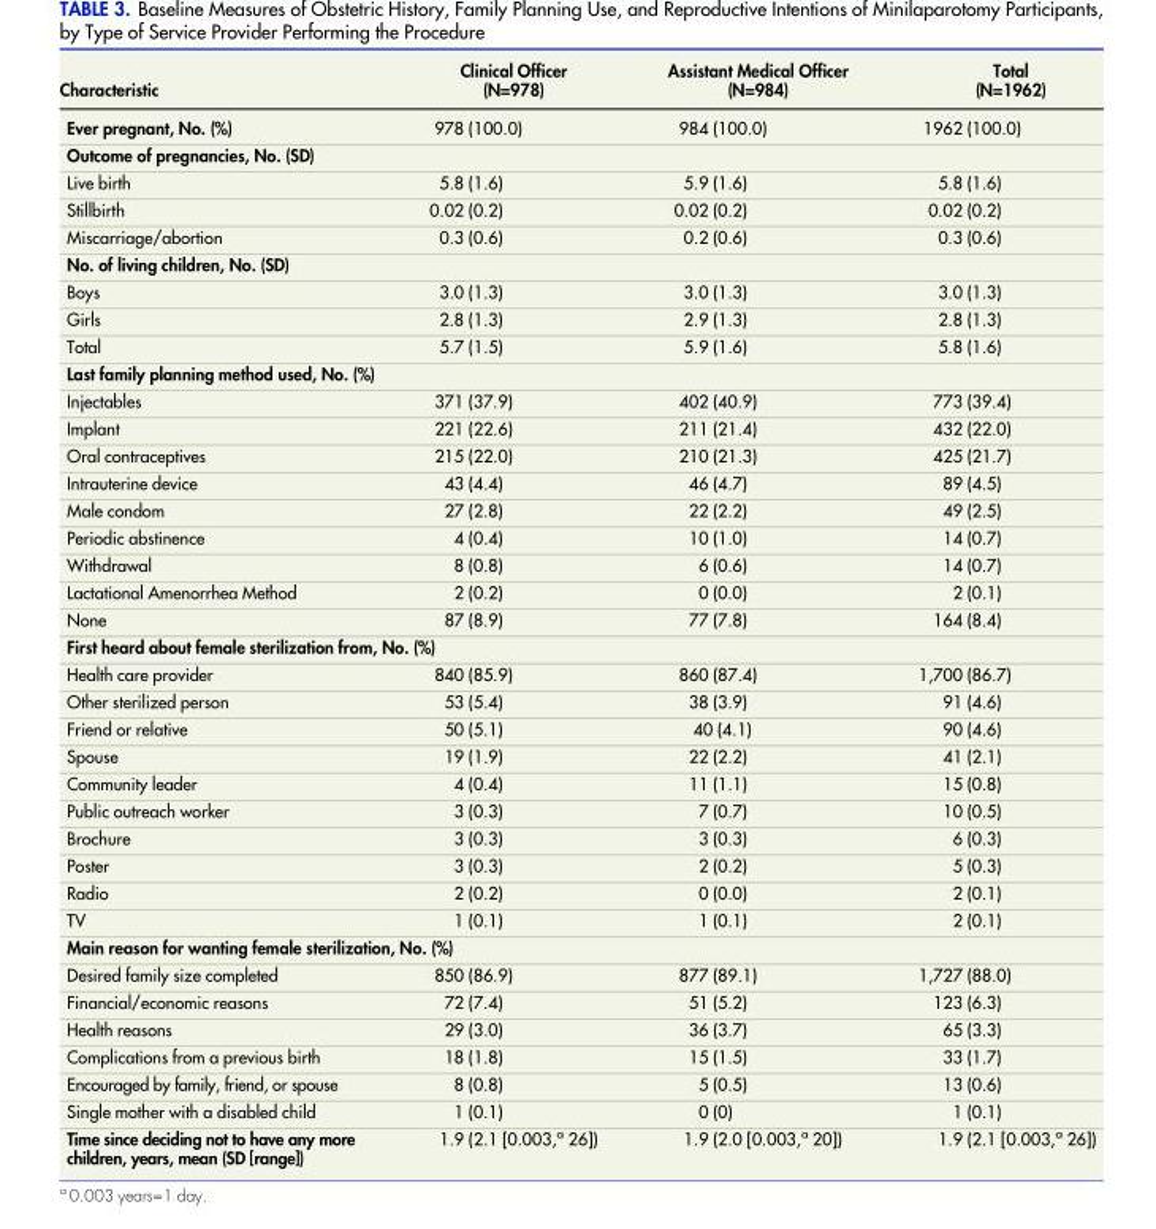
<table><thead><tr><td>Characteristic</td><td>Clinical Officer (N=978)</td><td>Assistant Medical Officer (N=984)</td><td>Total (N=1962)</td></tr></thead><tbody><tr><td>Ever pregnant, No. (%)</td><td>978 (100.0)</td><td>984 (100.0)</td><td>1962 (100.0)</td></tr><tr><td colspan="4">Outcome of pregnancies, No. (SD)</td></tr><tr><td>Live birth</td><td>5.8 (1.6)</td><td>5.9 (1.6)</td><td>5.8 (1.6)</td></tr><tr><td>Stillbirth</td><td>0.02 (0.2)</td><td>0.02 (0.2)</td><td>0.02 (0.2)</td></tr><tr><td>Miscarriage/abortion</td><td>0.3 (0.6)</td><td>0.2 (0.6)</td><td>0.3 (0.6)</td></tr><tr><td colspan="4">No. of living children, No. (SD)</td></tr><tr><td>Boys</td><td>3.0 (1.3)</td><td>3.0 (1.3)</td><td>3.0 (1.3)</td></tr><tr><td>Girls</td><td>2.8 (1.3)</td><td>2.9 (1.3)</td><td>2.8 (1.3)</td></tr><tr><td>Total</td><td>5.7 (1.5)</td><td>5.9 (1.6)</td><td>5.8 (1.6)</td></tr><tr><td colspan="4">Last family planning method used, No. (%)</td></tr><tr><td>Injectables</td><td>371 (37.9)</td><td>402 (40.9)</td><td>773 (39.4)</td></tr><tr><td>Implant</td><td>221 (22.6)</td><td>211 (21.4)</td><td>432 (22.0)</td></tr><tr><td>Oral contraceptives</td><td>215 (22.0)</td><td>210 (21.3)</td><td>425 (21.7)</td></tr><tr><td>Intrauterine device</td><td>43 (4.4)</td><td>46 (4.7)</td><td>89 (4.5)</td></tr><tr><td>Male condom</td><td>27 (2.8)</td><td>22 (2.2)</td><td>49 (2.5)</td></tr><tr><td>Periodic abstinence</td><td>4 (0.4)</td><td>10 (1.0)</td><td>14 (0.7)</td></tr><tr><td>Withdrawal</td><td>8 (0.8)</td><td>6 (0.6)</td><td>14 (0.7)</td></tr><tr><td>Lactational Amenorrhea Method</td><td>2 (0.2)</td><td>0 (0.0)</td><td>2 (0.1)</td></tr><tr><td>None</td><td>87 (8.9)</td><td>77 (7.8)</td><td>164 (8.4)</td></tr><tr><td colspan="4">First heard about female sterilization from, No. (%)</td></tr><tr><td>Health care provider</td><td>840 (85.9)</td><td>860 (87.4)</td><td>1,700 (86.7)</td></tr><tr><td>Other sterilized person</td><td>53 (5.4)</td><td>38 (3.9)</td><td>91 (4.6)</td></tr><tr><td>Friend or relative</td><td>50 (5.1)</td><td>40 (4.1)</td><td>90 (4.6)</td></tr><tr><td>Spouse</td><td>19 (1.9)</td><td>22 (2.2)</td><td>41 (2.1)</td></tr><tr><td>Community leader</td><td>4 (0.4)</td><td>11 (1.1)</td><td>15 (0.8)</td></tr><tr><td>Public outreach worker</td><td>3 (0.3)</td><td>7 (0.7)</td><td>10 (0.5)</td></tr><tr><td>Brochure</td><td>3 (0.3)</td><td>3 (0.3)</td><td>6 (0.3)</td></tr><tr><td>Poster</td><td>3 (0.3)</td><td>2 (0.2)</td><td>5 (0.3)</td></tr><tr><td>Radio</td><td>2 (0.2)</td><td>0 (0.0)</td><td>2 (0.1)</td></tr><tr><td>TV</td><td>1 (0.1)</td><td>1 (0.1)</td><td>2 (0.1)</td></tr><tr><td colspan="4">Main reason for wanting female sterilization, No. (%)</td></tr><tr><td>Desired family size completed</td><td>850 (86.9)</td><td>877 (89.1)</td><td>1,727 (88.0)</td></tr><tr><td>Financial/economic reasons</td><td>72 (7.4)</td><td>51 (5.2)</td><td>123 (6.3)</td></tr><tr><td>Health reasons</td><td>29 (3.0)</td><td>36 (3.7)</td><td>65 (3.3)</td></tr><tr><td>Complications from a previous birth</td><td>18 (1.8)</td><td>15 (1.5)</td><td>33 (1.7)</td></tr><tr><td>Encouraged by family, friend, or spouse</td><td>8 (0.8)</td><td>5 (0.5)</td><td>13 (0.6)</td></tr><tr><td>Single mother with a disabled child</td><td>1 (0.1)</td><td>0 (0)</td><td>1 (0.1)</td></tr><tr><td>Time since deciding not to have any more children, years, mean (SD [range])</td><td>1.9 (2.1 [0.003,<sup>a</sup> 26])</td><td>1.9 (2.0 [0.003,<sup>a</sup> 20])</td><td>1.9 (2.1 [0.003,<sup>a</sup> 26])</td></tr></tbody></table>